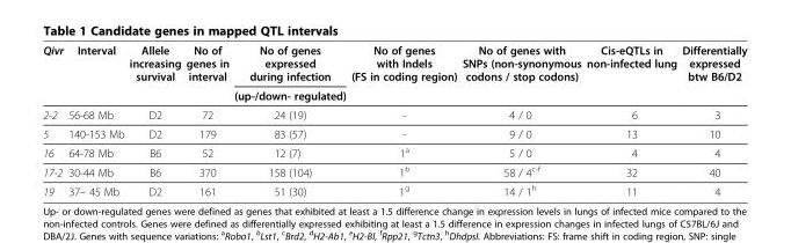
<table><thead><tr><td rowspan="2">Qivr</td><td rowspan="2">Interval</td><td rowspan="2">Allele increasing survival</td><td rowspan="2">No of genes in interval</td><td rowspan="2">No of genes expressed during infection (up-/down- regulated)</td><td rowspan="2">No of genes with Indels (FS in coding region)</td><td rowspan="2">No of genes with SNPs (non-synonymous codons / stop codons)</td><td rowspan="2">Cis-eQTLs in non-infected lung</td><td rowspan="2">Differentially expressed btw B6/D2</td></tr><tr></tr></thead><tbody><tr><td>2-2</td><td>56-68 Mb</td><td>D2</td><td>72</td><td>24 (19)</td><td>-</td><td>4 / 0</td><td>6</td><td>3</td></tr><tr><td>5</td><td>140-153 Mb</td><td>D2</td><td>179</td><td>83 (57)</td><td>-</td><td>9 / 0</td><td>13</td><td>10</td></tr><tr><td>16</td><td>64-78 Mb</td><td>B6</td><td>52</td><td>12 (7)</td><td>1<sup>a</sup></td><td>5 / 0</td><td>4</td><td>4</td></tr><tr><td>17-2</td><td>30-44 Mb</td><td>B6</td><td>370</td><td>158 (104)</td><td>1<sup>b</sup></td><td>58 / 4<sup>c-f</sup></td><td>32</td><td>40</td></tr><tr><td>19</td><td>37– 45 Mb</td><td>D2</td><td>161</td><td>51 (30)</td><td>1<sup>g</sup></td><td>14 / 1<sup>h</sup></td><td>11</td><td>4</td></tr></tbody></table>